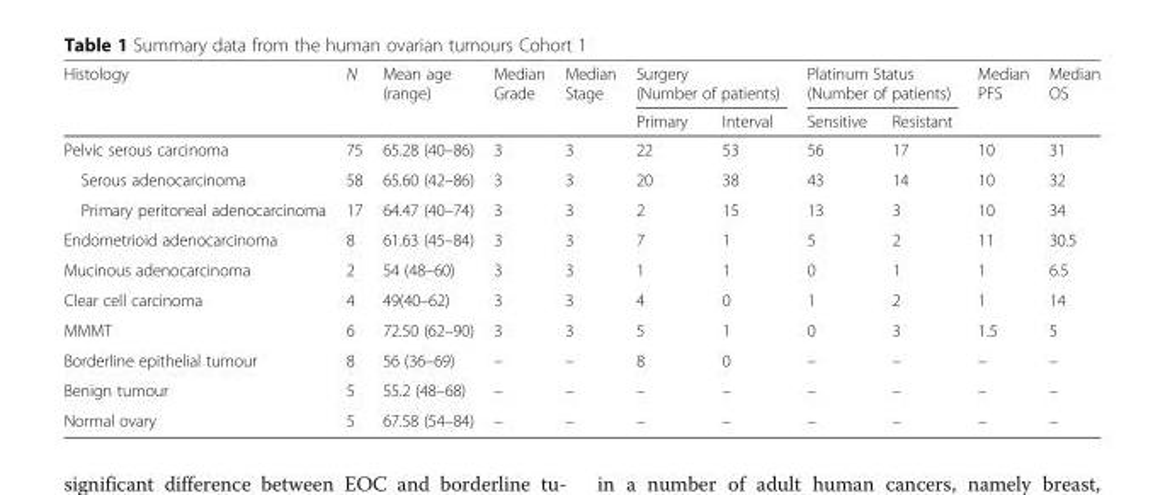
<table><thead><tr><td rowspan="2">Histology</td><td rowspan="2">N</td><td rowspan="2">Mean age (range)</td><td rowspan="2">Median Grade</td><td rowspan="2">Median Stage</td><td colspan="2">Surgery (Number of patients)</td><td colspan="2">Platinum Status (Number of patients)</td><td rowspan="2">Median PFS</td><td rowspan="2">Median OS</td></tr><tr><td>Primary</td><td>Interval</td><td>Sensitive</td><td>Resistant</td></tr></thead><tbody><tr><td>Pelvic serous carcinoma</td><td>75</td><td>65.28 (40–86)</td><td>3</td><td>3</td><td>22</td><td>53</td><td>56</td><td>17</td><td>10</td><td>31</td></tr><tr><td>Serous adenocarcinoma</td><td>58</td><td>65.60 (42–86)</td><td>3</td><td>3</td><td>20</td><td>38</td><td>43</td><td>14</td><td>10</td><td>32</td></tr><tr><td>Primary peritoneal adenocarcinoma</td><td>17</td><td>64.47 (40–74)</td><td>3</td><td>3</td><td>2</td><td>15</td><td>13</td><td>3</td><td>10</td><td>34</td></tr><tr><td>Endometrioid adenocarcinoma</td><td>8</td><td>61.63 (45–84)</td><td>3</td><td>3</td><td>7</td><td>1</td><td>5</td><td>2</td><td>11</td><td>30.5</td></tr><tr><td>Mucinous adenocarcinoma</td><td>2</td><td>54 (48–60)</td><td>3</td><td>3</td><td>1</td><td>1</td><td>0</td><td>1</td><td>1</td><td>6.5</td></tr><tr><td>Clear cell carcinoma</td><td>4</td><td>49(40–62)</td><td>3</td><td>3</td><td>4</td><td>0</td><td>1</td><td>2</td><td>1</td><td>14</td></tr><tr><td>MMMT</td><td>6</td><td>72.50 (62–90)</td><td>3</td><td>3</td><td>5</td><td>1</td><td>0</td><td>3</td><td>1.5</td><td>5</td></tr><tr><td>Borderline epithelial tumour</td><td>8</td><td>56 (36–69)</td><td>–</td><td>–</td><td>8</td><td>0</td><td>–</td><td>–</td><td>–</td><td>–</td></tr><tr><td>Benign tumour</td><td>5</td><td>55.2 (48–68)</td><td>–</td><td>–</td><td>–</td><td>–</td><td>–</td><td>–</td><td>–</td><td>–</td></tr><tr><td>Normal ovary</td><td>5</td><td>67.58 (54–84)</td><td>–</td><td>–</td><td>–</td><td>–</td><td>–</td><td>–</td><td>–</td><td>–</td></tr></tbody></table>